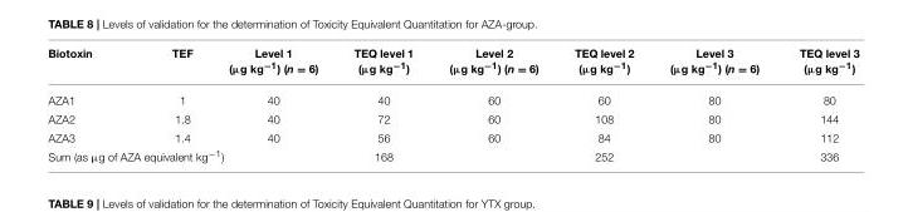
<table><thead><tr><td>Biotoxin</td><td>TEF</td><td>Level 1 (µg kg<sup>−1</sup>) (n = 6)</td><td>TEQ level 1 (µg kg<sup>−1</sup>)</td><td>Level 2 (µg kg<sup>−1</sup>) (n = 6)</td><td>TEQ level 2 (µg kg<sup>−1</sup>)</td><td>Level 3 (µg kg<sup>−1</sup>) (n = 6)</td><td>TEQ level 3 (µg kg<sup>−1</sup>)</td></tr></thead><tbody><tr><td>AZA1</td><td>1</td><td>40</td><td>40</td><td>60</td><td>60</td><td>80</td><td>80</td></tr><tr><td>AZA2</td><td>1.8</td><td>40</td><td>72</td><td>60</td><td>108</td><td>80</td><td>144</td></tr><tr><td>AZA3</td><td>1.4</td><td>40</td><td>56</td><td>60</td><td>84</td><td>80</td><td>112</td></tr><tr><td colspan="3">Sum (as µg of AZA equivalent kg<sup>−1</sup>)</td><td>168</td><td></td><td>252</td><td></td><td>336</td></tr></tbody></table>